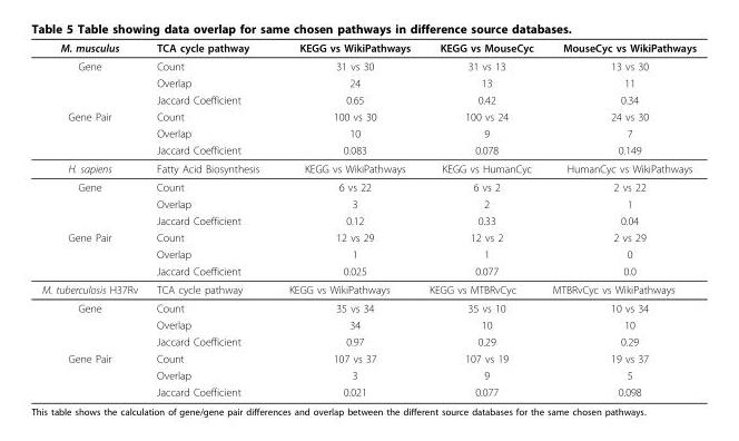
<table><thead><tr><td>M. musculus</td><td>TCA cycle pathway</td><td>KEGG vs WikiPathways</td><td>KEGG vs MouseCyc</td><td>MouseCyc vs WikiPathways</td></tr></thead><tbody><tr><td rowspan="3">Gene</td><td>Count</td><td>31 vs 30</td><td>31 vs 13</td><td>13 vs 30</td></tr><tr><td>Overlap</td><td>24</td><td>13</td><td>11</td></tr><tr><td>Jaccard Coefficient</td><td>0.65</td><td>0.42</td><td>0.34</td></tr><tr><td rowspan="3">Gene Pair</td><td>Count</td><td>100 vs 30</td><td>100 vs 24</td><td>24 vs 30</td></tr><tr><td>Overlap</td><td>10</td><td>9</td><td>7</td></tr><tr><td>Jaccard Coefficient</td><td>0.083</td><td>0.078</td><td>0.149</td></tr><tr><td>H. sapiens</td><td>Fatty Acid Biosynthesis</td><td>KEGG vs WikiPathways</td><td>KEGG vs HumanCyc</td><td>HumanCyc vs WikiPathways</td></tr><tr><td rowspan="3">Gene</td><td>Count</td><td>6 vs 22</td><td>6 vs 2</td><td>2 vs 22</td></tr><tr><td>Overlap</td><td>3</td><td>2</td><td>1</td></tr><tr><td>Jaccard Coefficient</td><td>0.12</td><td>0.33</td><td>0.04</td></tr><tr><td rowspan="3">Gene Pair</td><td>Count</td><td>12 vs 29</td><td>12 vs 2</td><td>2 vs 29</td></tr><tr><td>Overlap</td><td>1</td><td>1</td><td>0</td></tr><tr><td>Jaccard Coefficient</td><td>0.025</td><td>0.077</td><td>0.0</td></tr><tr><td>M. tuberculosis H37Rv</td><td>TCA cycle pathway</td><td>KEGG vs WikiPathways</td><td>KEGG vs MTBRvCyc</td><td>MTBRvCyc vs WikiPathways</td></tr><tr><td rowspan="3">Gene</td><td>Count</td><td>35 vs 34</td><td>35 vs 10</td><td>10 vs 34</td></tr><tr><td>Overlap</td><td>34</td><td>10</td><td>10</td></tr><tr><td>Jaccard Coefficient</td><td>0.97</td><td>0.29</td><td>0.29</td></tr><tr><td rowspan="3">Gene Pair</td><td>Count</td><td>107 vs 37</td><td>107 vs 19</td><td>19 vs 37</td></tr><tr><td>Overlap</td><td>3</td><td>9</td><td>5</td></tr><tr><td>Jaccard Coefficient</td><td>0.021</td><td>0.077</td><td>0.098</td></tr></tbody></table>